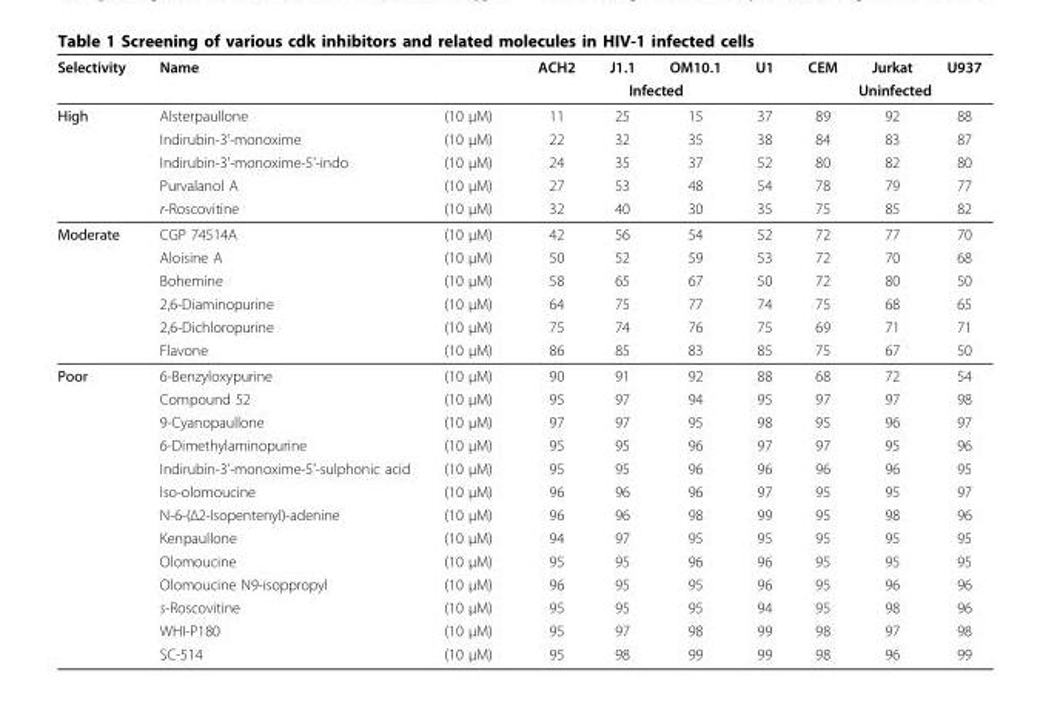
<table><thead><tr><td rowspan="2">Selectivity</td><td rowspan="2">Name</td><td rowspan="2"></td><td>ACH2</td><td>J1.1</td><td>OM10.1</td><td>U1</td><td>CEM</td><td>Jurkat</td><td>U937</td></tr><tr><td colspan="4">Infected</td><td colspan="3">Uninfected</td></tr></thead><tbody><tr><td rowspan="5">High</td><td>Alsterpaullone</td><td>(10 μM)</td><td>11</td><td>25</td><td>15</td><td>37</td><td>89</td><td>92</td><td>88</td></tr><tr><td>Indirubin-3’-monoxime</td><td>(10 μM)</td><td>22</td><td>32</td><td>35</td><td>38</td><td>84</td><td>83</td><td>87</td></tr><tr><td>Indirubin-3’-monoxime-5’-indo</td><td>(10 μM)</td><td>24</td><td>35</td><td>37</td><td>52</td><td>80</td><td>82</td><td>80</td></tr><tr><td>Purvalanol A</td><td>(10 μM)</td><td>27</td><td>53</td><td>48</td><td>54</td><td>78</td><td>79</td><td>77</td></tr><tr><td>r-Roscovitine</td><td>(10 μM)</td><td>32</td><td>40</td><td>30</td><td>35</td><td>75</td><td>85</td><td>82</td></tr><tr><td rowspan="6">Moderate</td><td>CGP 74514A</td><td>(10 μM)</td><td>42</td><td>56</td><td>54</td><td>52</td><td>72</td><td>77</td><td>70</td></tr><tr><td>Aloisine A</td><td>(10 μM)</td><td>50</td><td>52</td><td>59</td><td>53</td><td>72</td><td>70</td><td>68</td></tr><tr><td>Bohemine</td><td>(10 μM)</td><td>58</td><td>65</td><td>67</td><td>50</td><td>72</td><td>80</td><td>50</td></tr><tr><td>2,6-Diaminopurine</td><td>(10 μM)</td><td>64</td><td>75</td><td>77</td><td>74</td><td>75</td><td>68</td><td>65</td></tr><tr><td>2,6-Dichloropurine</td><td>(10 μM)</td><td>75</td><td>74</td><td>76</td><td>75</td><td>69</td><td>71</td><td>71</td></tr><tr><td>Flavone</td><td>(10 μM)</td><td>86</td><td>85</td><td>83</td><td>85</td><td>75</td><td>67</td><td>50</td></tr><tr><td rowspan="13">Poor</td><td>6-Benzyloxypurine</td><td>(10 μM)</td><td>90</td><td>91</td><td>92</td><td>88</td><td>68</td><td>72</td><td>54</td></tr><tr><td>Compound 52</td><td>(10 μM)</td><td>95</td><td>97</td><td>94</td><td>95</td><td>97</td><td>97</td><td>98</td></tr><tr><td>9-Cyanopaullone</td><td>(10 μM)</td><td>97</td><td>97</td><td>95</td><td>98</td><td>95</td><td>96</td><td>97</td></tr><tr><td>6-Dimethylaminopurine</td><td>(10 μM)</td><td>95</td><td>95</td><td>96</td><td>97</td><td>97</td><td>95</td><td>96</td></tr><tr><td>Indirubin-3’-monoxime-5’-sulphonic acid</td><td>(10 μM)</td><td>95</td><td>95</td><td>96</td><td>96</td><td>96</td><td>96</td><td>95</td></tr><tr><td>Iso-olomoucine</td><td>(10 μM)</td><td>96</td><td>96</td><td>96</td><td>97</td><td>95</td><td>95</td><td>97</td></tr><tr><td>N-6-(Δ2-Isopentenyl)-adenine</td><td>(10 μM)</td><td>96</td><td>96</td><td>98</td><td>99</td><td>95</td><td>98</td><td>96</td></tr><tr><td>Kenpaullone</td><td>(10 μM)</td><td>94</td><td>97</td><td>95</td><td>95</td><td>95</td><td>95</td><td>95</td></tr><tr><td>Olomoucine</td><td>(10 μM)</td><td>95</td><td>95</td><td>96</td><td>96</td><td>95</td><td>95</td><td>95</td></tr><tr><td>Olomoucine N9-isoppropyl</td><td>(10 μM)</td><td>96</td><td>95</td><td>95</td><td>96</td><td>95</td><td>96</td><td>96</td></tr><tr><td>s-Roscovitine</td><td>(10 μM)</td><td>95</td><td>95</td><td>95</td><td>94</td><td>95</td><td>98</td><td>96</td></tr><tr><td>WHI-P180</td><td>(10 μM)</td><td>95</td><td>97</td><td>98</td><td>99</td><td>98</td><td>97</td><td>98</td></tr><tr><td>SC-514</td><td>(10 μM)</td><td>95</td><td>98</td><td>99</td><td>99</td><td>98</td><td>96</td><td>99</td></tr></tbody></table>